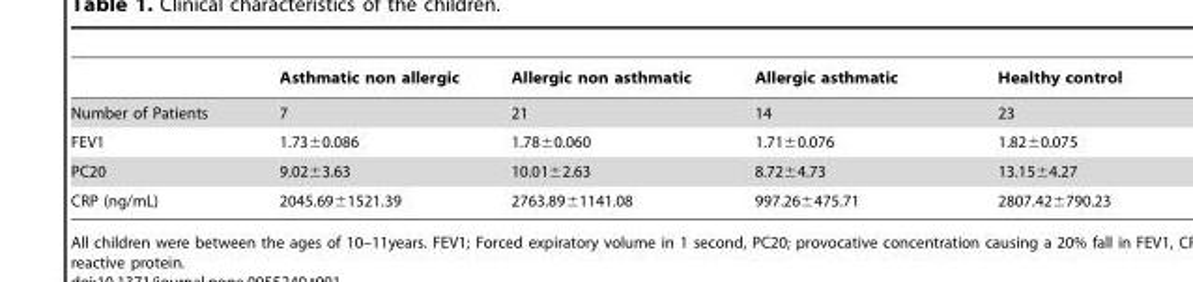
<table><thead><tr><td></td><td>Asthmatic non allergic</td><td>Allergic non asthmatic</td><td>Allergic asthmatic</td><td>Healthy control</td></tr></thead><tbody><tr><td>Number of Patients</td><td>7</td><td>21</td><td>14</td><td>23</td></tr><tr><td>FEV1</td><td>1.73±0.086</td><td>1.78±0.060</td><td>1.71±0.076</td><td>1.82±0.075</td></tr><tr><td>PC20</td><td>9.02±3.63</td><td>10.01±2.63</td><td>8.72±4.73</td><td>13.15±4.27</td></tr><tr><td>CRP (ng/mL)</td><td>2045.69±1521.39</td><td>2763.89±1141.08</td><td>997.26±475.71</td><td>2807.42±790.23</td></tr></tbody></table>